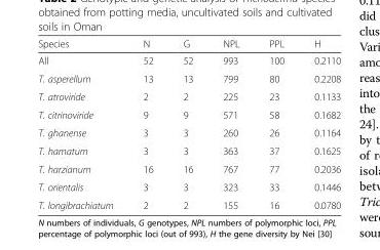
<table><thead><tr><td>Species</td><td>N</td><td>G</td><td>NPL</td><td>PPL</td><td>H</td></tr></thead><tbody><tr><td>All</td><td>52</td><td>52</td><td>993</td><td>100</td><td>0.2110</td></tr><tr><td>T. asperellum</td><td>13</td><td>13</td><td>799</td><td>80</td><td>0.2208</td></tr><tr><td>T. atroviride</td><td>2</td><td>2</td><td>225</td><td>23</td><td>0.1133</td></tr><tr><td>T. citrinoviride</td><td>9</td><td>9</td><td>571</td><td>58</td><td>0.1682</td></tr><tr><td>T. ghanense</td><td>3</td><td>3</td><td>260</td><td>26</td><td>0.1164</td></tr><tr><td>T. hamatum</td><td>3</td><td>3</td><td>363</td><td>37</td><td>0.1625</td></tr><tr><td>T. harzianum</td><td>16</td><td>16</td><td>767</td><td>77</td><td>0.2036</td></tr><tr><td>T. orientalis</td><td>3</td><td>3</td><td>323</td><td>33</td><td>0.1446</td></tr><tr><td>T. longibrachiatum</td><td>2</td><td>2</td><td>155</td><td>16</td><td>0.0780</td></tr></tbody></table>